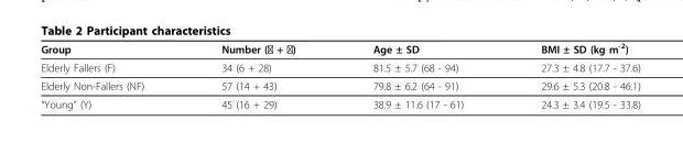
<table><thead><tr><td>Group</td><td>Number (♂ + ♀)</td><td>Age ± SD</td><td>BMI ± SD (kg m<sup>-2</sup>)</td></tr></thead><tbody><tr><td>Elderly Fallers (F)</td><td>34 (6 + 28)</td><td>81.5 ± 5.7 (68 - 94)</td><td>27.3 ± 4.8 (17.7 - 37.6)</td></tr><tr><td>Elderly Non-Fallers (NF)</td><td>57 (14 + 43)</td><td>79.8 ± 6.2 (64 - 91)</td><td>29.6 ± 5.3 (20.8 - 46.1)</td></tr><tr><td>“Young” (Y)</td><td>45 (16 + 29)</td><td>38.9 ± 11.6 (17 - 61)</td><td>24.3 ± 3.4 (19.5 - 33.8)</td></tr></tbody></table>